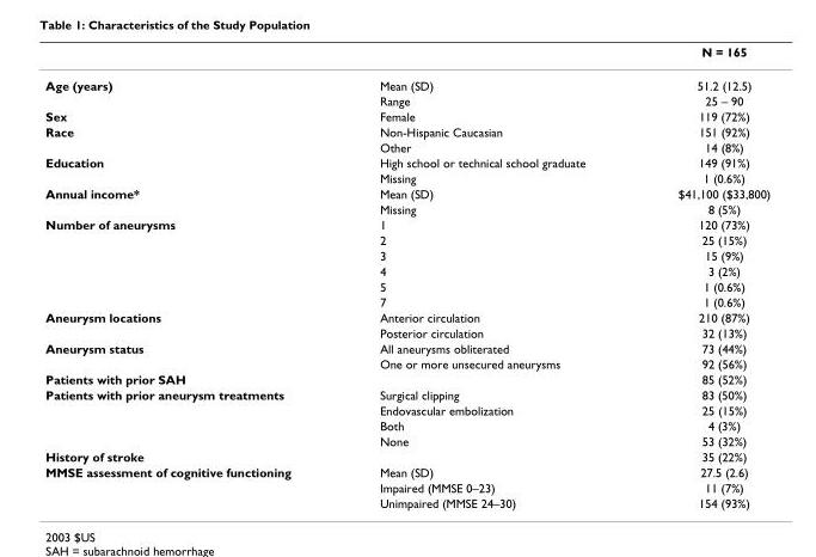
<table><thead><tr><td></td><td></td><td>N = 165</td></tr></thead><tbody><tr><td rowspan="2">Age (years)</td><td>Mean (SD)</td><td>51.2 (12.5)</td></tr><tr><td>Range</td><td>25 – 90</td></tr><tr><td>Sex</td><td>Female</td><td>119 (72%)</td></tr><tr><td rowspan="2">Race</td><td>Non-Hispanic Caucasian</td><td>151 (92%)</td></tr><tr><td>Other</td><td>14 (8%)</td></tr><tr><td rowspan="2">Education</td><td>High school or technical school graduate</td><td>149 (91%)</td></tr><tr><td>Missing</td><td>1 (0.6%)</td></tr><tr><td rowspan="2">Annual income*</td><td>Mean (SD)</td><td>$41,100 ($33,800)</td></tr><tr><td>Missing</td><td>8 (5%)</td></tr><tr><td rowspan="6">Number of aneurysms</td><td>1</td><td>120 (73%)</td></tr><tr><td>2</td><td>25 (15%)</td></tr><tr><td>3</td><td>15 (9%)</td></tr><tr><td>4</td><td>3 (2%)</td></tr><tr><td>5</td><td>1 (0.6%)</td></tr><tr><td>7</td><td>1 (0.6%)</td></tr><tr><td rowspan="2">Aneurysm locations</td><td>Anterior circulation</td><td>210 (87%)</td></tr><tr><td>Posterior circulation</td><td>32 (13%)</td></tr><tr><td rowspan="2">Aneurysm status</td><td>All aneurysms obliterated</td><td>73 (44%)</td></tr><tr><td>One or more unsecured aneurysms</td><td>92 (56%)</td></tr><tr><td>Patients with prior SAH</td><td></td><td>85 (52%)</td></tr><tr><td rowspan="4">Patients with prior aneurysm treatments</td><td>Surgical clipping</td><td>83 (50%)</td></tr><tr><td>Endovascular embolization</td><td>25 (15%)</td></tr><tr><td>Both</td><td>4 (3%)</td></tr><tr><td>None</td><td>53 (32%)</td></tr><tr><td>History of stroke</td><td></td><td>35 (22%)</td></tr><tr><td rowspan="3">MMSE assessment of cognitive functioning</td><td>Mean (SD)</td><td>27.5 (2.6)</td></tr><tr><td>Impaired (MMSE 0–23)</td><td>11 (7%)</td></tr><tr><td>Unimpaired (MMSE 24–30)</td><td>154 (93%)</td></tr></tbody></table>